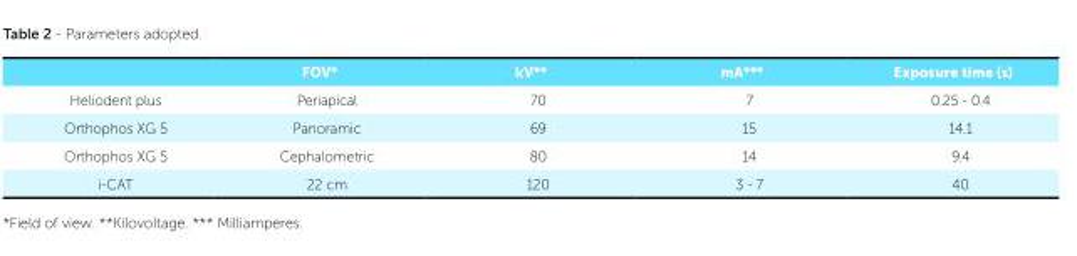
<table><thead><tr><td></td><td>FOV*</td><td>kV**</td><td>mA***</td><td>Exposure time (s)</td></tr></thead><tbody><tr><td>Heliodent plus</td><td>Periapical</td><td>70</td><td>7</td><td>0.25 - 0.4</td></tr><tr><td>Orthophos XG 5</td><td>Panoramic</td><td>69</td><td>15</td><td>14.1</td></tr><tr><td>Orthophos XG 5</td><td>Cephalometric</td><td>80</td><td>14</td><td>9.4</td></tr><tr><td>i-CAT</td><td>22 cm</td><td>120</td><td>3 - 7</td><td>40</td></tr></tbody></table>